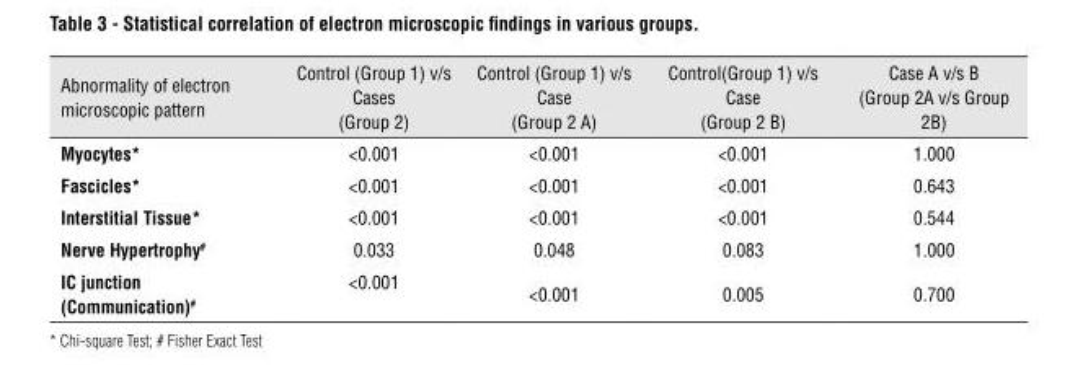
<table><thead><tr><td>Abnormality of electron microscopic pattern</td><td>Control (Group 1) v/s Cases (Group 2)</td><td>Control (Group 1) v/s Case (Group 2 A)</td><td>Control(Group 1) v/s Case (Group 2 B)</td><td>Case A v/s B (Group 2A v/s Group 2B)</td></tr></thead><tbody><tr><td>Myocytes*</td><td>&lt;0.001</td><td>&lt;0.001</td><td>&lt;0.001</td><td>1.000</td></tr><tr><td>Fascicles*</td><td>&lt;0.001</td><td>&lt;0.001</td><td>&lt;0.001</td><td>0.643</td></tr><tr><td>Interstitial Tissue*</td><td>&lt;0.001</td><td>&lt;0.001</td><td>&lt;0.001</td><td>0.544</td></tr><tr><td>Nerve Hypertrophy#</td><td>0.033</td><td>0.048</td><td>0.083</td><td>1.000</td></tr><tr><td>IC junction (Communication)#</td><td>&lt;0.001</td><td>&lt;0.001</td><td>0.005</td><td>0.700</td></tr></tbody></table>